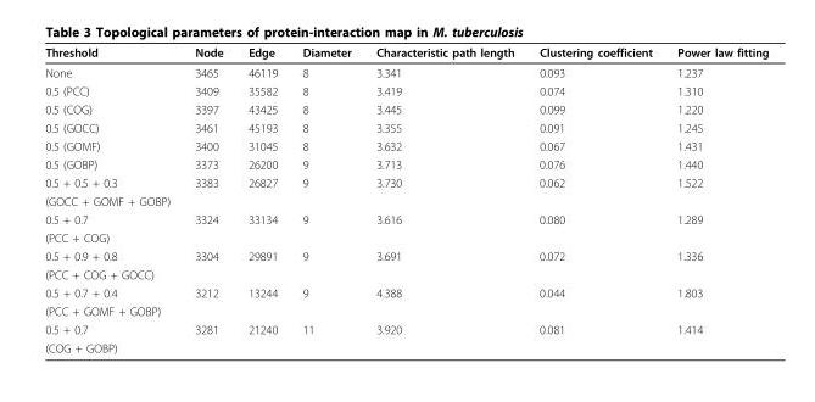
<table><thead><tr><td>Threshold</td><td>Node</td><td>Edge</td><td>Diameter</td><td>Characteristic path length</td><td>Clustering coefficient</td><td>Power law fitting</td></tr></thead><tbody><tr><td>None</td><td>3465</td><td>46119</td><td>8</td><td>3.341</td><td>0.093</td><td>1.237</td></tr><tr><td>0.5 (PCC)</td><td>3409</td><td>35582</td><td>8</td><td>3.419</td><td>0.074</td><td>1.310</td></tr><tr><td>0.5 (COG)</td><td>3397</td><td>43425</td><td>8</td><td>3.445</td><td>0.099</td><td>1.220</td></tr><tr><td>0.5 (GOCC)</td><td>3461</td><td>45193</td><td>8</td><td>3.355</td><td>0.091</td><td>1.245</td></tr><tr><td>0.5 (GOMF)</td><td>3400</td><td>31045</td><td>8</td><td>3.632</td><td>0.067</td><td>1.431</td></tr><tr><td>0.5 (GOBP)</td><td>3373</td><td>26200</td><td>9</td><td>3.713</td><td>0.076</td><td>1.440</td></tr><tr><td>0.5 + 0.5 + 0.3</td><td>3383</td><td>26827</td><td>9</td><td>3.730</td><td>0.062</td><td>1.522</td></tr><tr><td colspan="7">(GOCC + GOMF + GOBP)</td></tr><tr><td>0.5 + 0.7</td><td>3324</td><td>33134</td><td>9</td><td>3.616</td><td>0.080</td><td>1.289</td></tr><tr><td colspan="7">(PCC + COG)</td></tr><tr><td>0.5 + 0.9 + 0.8</td><td>3304</td><td>29891</td><td>9</td><td>3.691</td><td>0.072</td><td>1.336</td></tr><tr><td colspan="7">(PCC + COG + GOCC)</td></tr><tr><td>0.5 + 0.7 + 0.4</td><td>3212</td><td>13244</td><td>9</td><td>4.388</td><td>0.044</td><td>1.803</td></tr><tr><td colspan="7">(PCC + GOMF + GOBP)</td></tr><tr><td>0.5 + 0.7</td><td>3281</td><td>21240</td><td>11</td><td>3.920</td><td>0.081</td><td>1.414</td></tr><tr><td>(COG + GOBP)</td><td></td><td></td><td></td><td></td><td></td><td></td></tr></tbody></table>